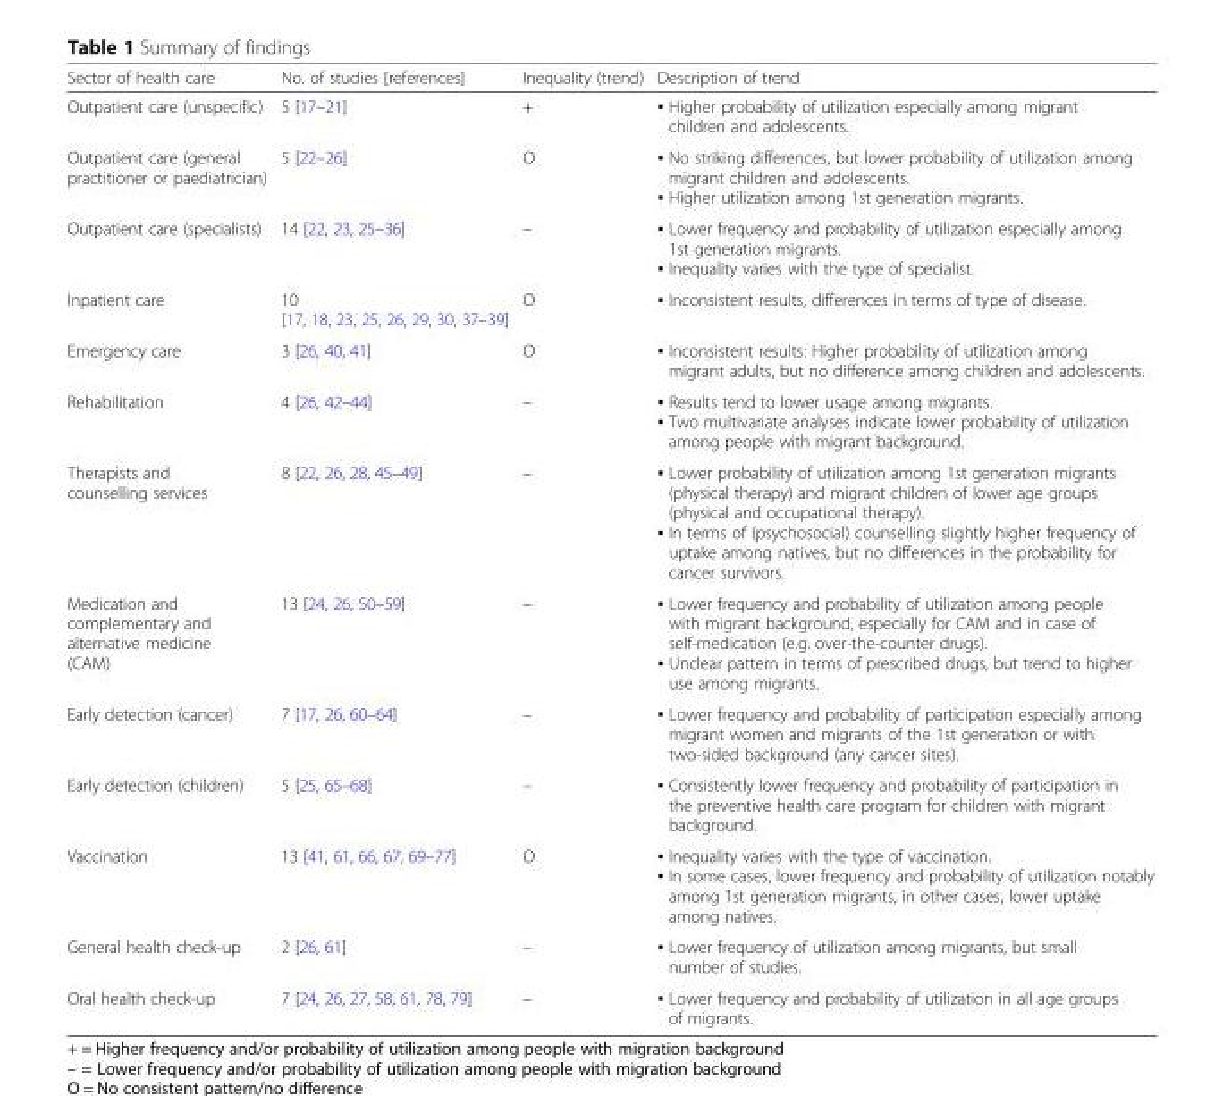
<table><thead><tr><td>Sector of health care</td><td>No. of studies [references]</td><td>Inequality (trend)</td><td>Description of trend</td></tr></thead><tbody><tr><td>Outpatient care (unspecific)</td><td>5 [17–21]</td><td>+</td><td>▪ Higher probability of utilization especially among migrant children and adolescents.</td></tr><tr><td>Outpatient care (general practitioner or paediatrician)</td><td>5 [22–26]</td><td>O</td><td>▪ No striking differences, but lower probability of utilization among migrant children and adolescents. ▪ Higher utilization among 1st generation migrants.</td></tr><tr><td>Outpatient care (specialists)</td><td>14 [22, 23, 25–36]</td><td>–</td><td>▪ Lower frequency and probability of utilization especially among 1st generation migrants. ▪ Inequality varies with the type of specialist.</td></tr><tr><td>Inpatient care</td><td>10 [17, 18, 23, 25, 26, 29, 30, 37–39]</td><td>O</td><td>▪ Inconsistent results, differences in terms of type of disease.</td></tr><tr><td>Emergency care</td><td>3 [26, 40, 41]</td><td>O</td><td>▪ Inconsistent results: Higher probability of utilization among migrant adults, but no difference among children and adolescents.</td></tr><tr><td>Rehabilitation</td><td>4 [26, 42–44]</td><td>–</td><td>▪ Results tend to lower usage among migrants. ▪ Two multivariate analyses indicate lower probability of utilization among people with migrant background.</td></tr><tr><td>Therapists and counselling services</td><td>8 [22, 26, 28, 45–49]</td><td>–</td><td>▪ Lower probability of utilization among 1st generation migrants (physical therapy) and migrant children of lower age groups (physical and occupational therapy). ▪ In terms of (psychosocial) counselling slightly higher frequency of uptake among natives, but no differences in the probability for cancer survivors.</td></tr><tr><td>Medication and complementary and alternative medicine (CAM)</td><td>13 [24, 26, 50–59]</td><td>–</td><td>▪ Lower frequency and probability of utilization among people with migrant background, especially for CAM and in case of self-medication (e.g. over-the-counter drugs). ▪ Unclear pattern in terms of prescribed drugs, but trend to higher use among migrants.</td></tr><tr><td>Early detection (cancer)</td><td>7 [17, 26, 60–64]</td><td>–</td><td>▪ Lower frequency and probability of participation especially among migrant women and migrants of the 1st generation or with two-sided background (any cancer sites).</td></tr><tr><td>Early detection (children)</td><td>5 [25, 65–68]</td><td>–</td><td>▪ Consistently lower frequency and probability of participation in the preventive health care program for children with migrant background.</td></tr><tr><td>Vaccination</td><td>13 [41, 61, 66, 67, 69–77]</td><td>O</td><td>▪ Inequality varies with the type of vaccination. ▪ In some cases, lower frequency and probability of utilization notably among 1st generation migrants, in other cases, lower uptake among natives.</td></tr><tr><td>General health check-up</td><td>2 [26, 61]</td><td>–</td><td>▪ Lower frequency of utilization among migrants, but small number of studies.</td></tr><tr><td>Oral health check-up</td><td>7 [24, 26, 27, 58, 61, 78, 79]</td><td>–</td><td>▪ Lower frequency and probability of utilization in all age groups of migrants.</td></tr></tbody></table>